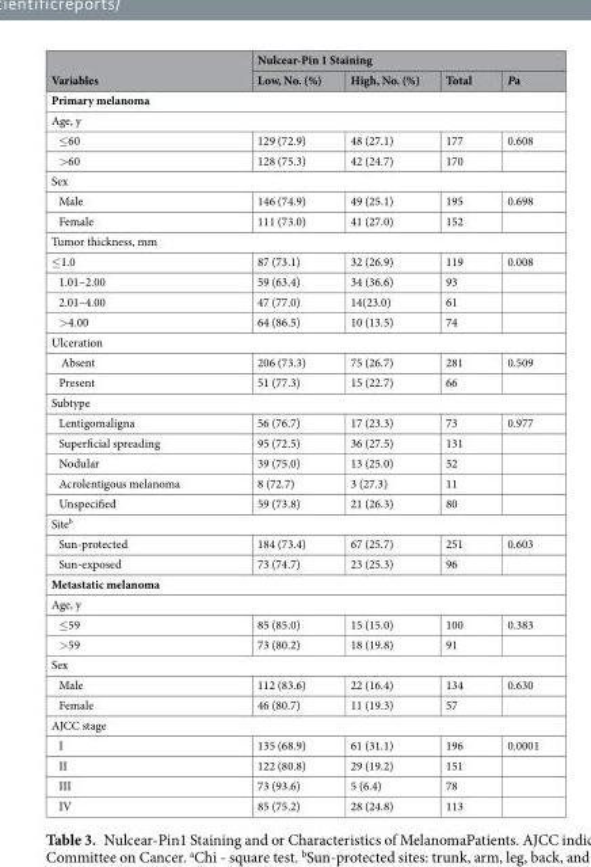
<table><thead><tr><td rowspan="2">Variables</td><td colspan="4">Nulcear-Pin 1 Staining</td></tr><tr><td>Low, No. (%)</td><td>High, No. (%)</td><td>Total</td><td>Pa</td></tr></thead><tbody><tr><td colspan="5">Primary melanoma</td></tr><tr><td colspan="5">Age, y</td></tr><tr><td>≤60</td><td>129 (72.9)</td><td>48 (27.1)</td><td>177</td><td>0.608</td></tr><tr><td>&gt;60</td><td>128 (75.3)</td><td>42 (24.7)</td><td>170</td><td></td></tr><tr><td colspan="5">Sex</td></tr><tr><td>Male</td><td>146 (74.9)</td><td>49 (25.1)</td><td>195</td><td>0.698</td></tr><tr><td>Female</td><td>111 (73.0)</td><td>41 (27.0)</td><td>152</td><td></td></tr><tr><td colspan="5">Tumor thickness, mm</td></tr><tr><td>≤1.0</td><td>87 (73.1)</td><td>32 (26.9)</td><td>119</td><td>0.008</td></tr><tr><td>1.01–2.00</td><td>59 (63.4)</td><td>34 (36.6)</td><td>93</td><td></td></tr><tr><td>2.01–4.00</td><td>47 (77.0)</td><td>14(23.0)</td><td>61</td><td></td></tr><tr><td>&gt;4.00</td><td>64 (86.5)</td><td>10 (13.5)</td><td>74</td><td></td></tr><tr><td colspan="5">Ulceration</td></tr><tr><td>Absent</td><td>206 (73.3)</td><td>75 (26.7)</td><td>281</td><td>0.509</td></tr><tr><td>Present</td><td>51 (77.3)</td><td>15 (22.7)</td><td>66</td><td></td></tr><tr><td colspan="5">Subtype</td></tr><tr><td>Lentigomaligna</td><td>56 (76.7)</td><td>17 (23.3)</td><td>73</td><td>0.977</td></tr><tr><td>Superficial spreading</td><td>95 (72.5)</td><td>36 (27.5)</td><td>131</td><td></td></tr><tr><td>Nodular</td><td>39 (75.0)</td><td>13 (25.0)</td><td>52</td><td></td></tr><tr><td>Acrolentigous melanoma</td><td>8 (72.7)</td><td>3 (27.3)</td><td>11</td><td></td></tr><tr><td>Unspecified</td><td>59 (73.8)</td><td>21 (26.3)</td><td>80</td><td></td></tr><tr><td colspan="5">Site<sup>b</sup></td></tr><tr><td>Sun-protected</td><td>184 (73.4)</td><td>67 (25.7)</td><td>251</td><td>0.603</td></tr><tr><td>Sun-exposed</td><td>73 (74.7)</td><td>23 (25.3)</td><td>96</td><td></td></tr><tr><td colspan="5">Metastatic melanoma</td></tr><tr><td colspan="5">Age, y</td></tr><tr><td>≤59</td><td>85 (85.0)</td><td>15 (15.0)</td><td>100</td><td>0.383</td></tr><tr><td>&gt;59</td><td>73 (80.2)</td><td>18 (19.8)</td><td>91</td><td></td></tr><tr><td colspan="5">Sex</td></tr><tr><td>Male</td><td>112 (83.6)</td><td>22 (16.4)</td><td>134</td><td>0.630</td></tr><tr><td>Female</td><td>46 (80.7)</td><td>11 (19.3)</td><td>57</td><td></td></tr><tr><td colspan="5">AJCC stage</td></tr><tr><td>I</td><td>135 (68.9)</td><td>61 (31.1)</td><td>196</td><td>0.0001</td></tr><tr><td>II</td><td>122 (80.8)</td><td>29 (19.2)</td><td>151</td><td></td></tr><tr><td>III</td><td>73 (93.6)</td><td>5 (6.4)</td><td>78</td><td></td></tr><tr><td>IV</td><td>85 (75.2)</td><td>28 (24.8)</td><td>113</td><td></td></tr></tbody></table>